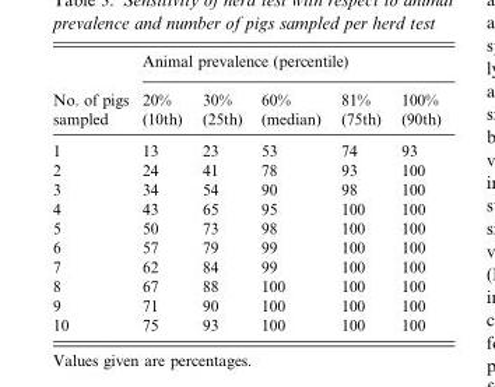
<table><thead><tr><td rowspan="2">No. of pigs sampled</td><td colspan="5">Animal prevalence (percentile)</td></tr><tr><td>20% (10th)</td><td>30% (25th)</td><td>60% (median)</td><td>81% (75th)</td><td>100% (90th)</td></tr></thead><tbody><tr><td>1</td><td>13</td><td>23</td><td>53</td><td>74</td><td>93</td></tr><tr><td>2</td><td>24</td><td>41</td><td>78</td><td>93</td><td>100</td></tr><tr><td>3</td><td>34</td><td>54</td><td>90</td><td>98</td><td>100</td></tr><tr><td>4</td><td>43</td><td>65</td><td>95</td><td>100</td><td>100</td></tr><tr><td>5</td><td>50</td><td>73</td><td>98</td><td>100</td><td>100</td></tr><tr><td>6</td><td>57</td><td>79</td><td>99</td><td>100</td><td>100</td></tr><tr><td>7</td><td>62</td><td>84</td><td>99</td><td>100</td><td>100</td></tr><tr><td>8</td><td>67</td><td>88</td><td>100</td><td>100</td><td>100</td></tr><tr><td>9</td><td>71</td><td>90</td><td>100</td><td>100</td><td>100</td></tr><tr><td>10</td><td>75</td><td>93</td><td>100</td><td>100</td><td>100</td></tr></tbody></table>